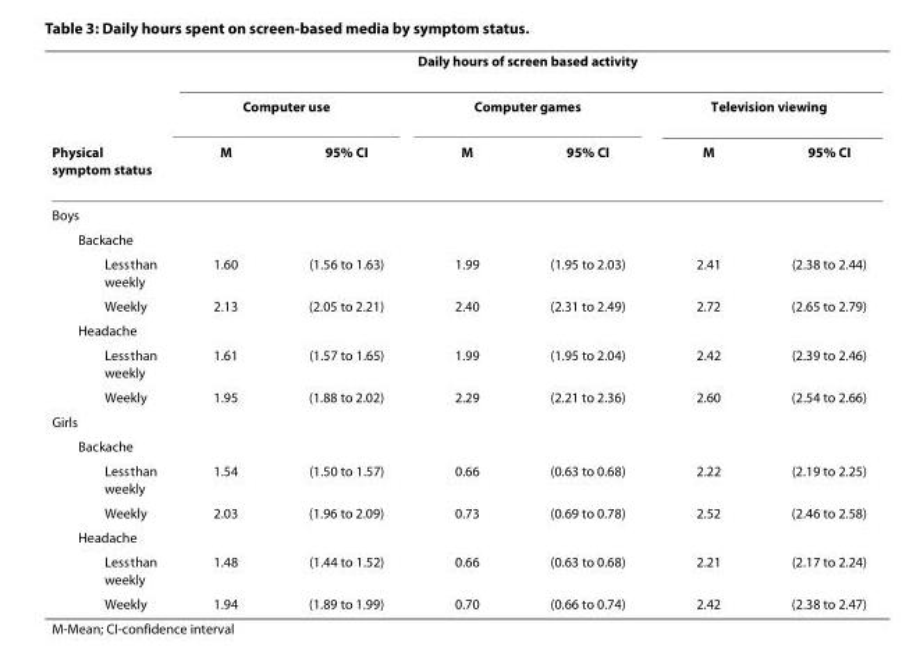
<table><thead><tr><td rowspan="3">Physical symptom status</td><td colspan="6">Daily hours of screen based activity</td></tr><tr><td colspan="2">Computer use</td><td colspan="2">Computer games</td><td colspan="2">Television viewing</td></tr><tr><td>M</td><td>95% CI</td><td>M</td><td>95% CI</td><td>M</td><td>95% CI</td></tr></thead><tbody><tr><td colspan="7">Boys</td></tr><tr><td colspan="7">Backache</td></tr><tr><td>Less than weekly</td><td>1.60</td><td>(1.56 to 1.63)</td><td>1.99</td><td>(1.95 to 2.03)</td><td>2.41</td><td>(2.38 to 2.44)</td></tr><tr><td>Weekly</td><td>2.13</td><td>(2.05 to 2.21)</td><td>2.40</td><td>(2.31 to 2.49)</td><td>2.72</td><td>(2.65 to 2.79)</td></tr><tr><td colspan="7">Headache</td></tr><tr><td>Less than weekly</td><td>1.61</td><td>(1.57 to 1.65)</td><td>1.99</td><td>(1.95 to 2.04)</td><td>2.42</td><td>(2.39 to 2.46)</td></tr><tr><td>Weekly</td><td>1.95</td><td>(1.88 to 2.02)</td><td>2.29</td><td>(2.21 to 2.36)</td><td>2.60</td><td>(2.54 to 2.66)</td></tr><tr><td colspan="7">Girls</td></tr><tr><td colspan="7">Backache</td></tr><tr><td>Less than weekly</td><td>1.54</td><td>(1.50 to 1.57)</td><td>0.66</td><td>(0.63 to 0.68)</td><td>2.22</td><td>(2.19 to 2.25)</td></tr><tr><td>Weekly</td><td>2.03</td><td>(1.96 to 2.09)</td><td>0.73</td><td>(0.69 to 0.78)</td><td>2.52</td><td>(2.46 to 2.58)</td></tr><tr><td colspan="7">Headache</td></tr><tr><td>Less than weekly</td><td>1.48</td><td>(1.44 to 1.52)</td><td>0.66</td><td>(0.63 to 0.68)</td><td>2.21</td><td>(2.17 to 2.24)</td></tr><tr><td>Weekly</td><td>1.94</td><td>(1.89 to 1.99)</td><td>0.70</td><td>(0.66 to 0.74)</td><td>2.42</td><td>(2.38 to 2.47)</td></tr></tbody></table>